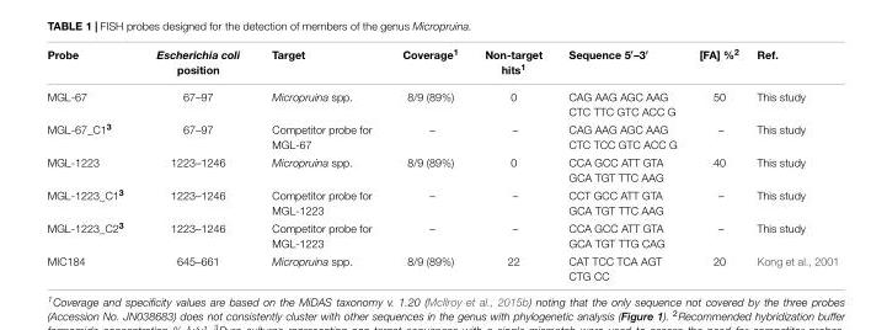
<table><thead><tr><td>Probe</td><td>Escherichia coli position</td><td>Target</td><td>Coverage<sup>1</sup></td><td>Non-target hits<sup>1</sup></td><td>Sequence 5′–3′</td><td>[FA] %<sup>2</sup></td><td>Ref.</td></tr></thead><tbody><tr><td>MGL-67</td><td>67–97</td><td>Micropruina spp.</td><td>8/9 (89%)</td><td>0</td><td>CAG AAG AGC AAG CTC TTC GTC ACC G</td><td>50</td><td>This study</td></tr><tr><td>MGL-67_C1<sup>3</sup></td><td>67–97</td><td>Competitor probe for MGL-67</td><td>–</td><td>–</td><td>CAG AAG AGC AAG CTC TCC GTC ACC G</td><td>–</td><td>This study</td></tr><tr><td>MGL-1223</td><td>1223–1246</td><td>Micropruina spp.</td><td>8/9 (89%)</td><td>0</td><td>CCA GCC ATT GTA GCA TGT TTC AAG</td><td>40</td><td>This study</td></tr><tr><td>MGL-1223_C1<sup>3</sup></td><td>1223–1246</td><td>Competitor probe for MGL-1223</td><td>–</td><td>–</td><td>CCT GCC ATT GTA GCA TGT TTC AAG</td><td>–</td><td>This study</td></tr><tr><td>MGL-1223_C2<sup>3</sup></td><td>1223–1246</td><td>Competitor probe for MGL-1223</td><td>–</td><td>–</td><td>CCA GCC ATT GTA GCA TGT TTG CAG</td><td>–</td><td>This study</td></tr><tr><td>MIC184</td><td>645–661</td><td>Micropruina spp.</td><td>8/9 (89%)</td><td>22</td><td>CAT TCC TCA AGT CTG CC</td><td>20</td><td>Kong et al., 2001</td></tr></tbody></table>